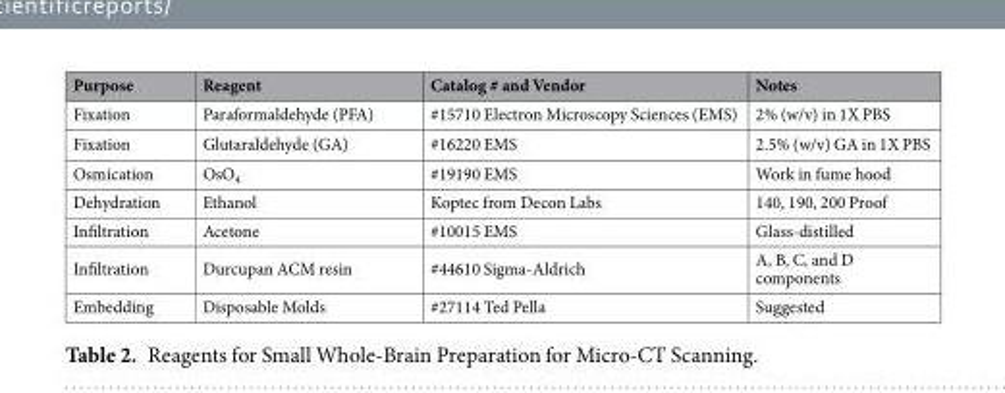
<table><thead><tr><td>Purpose</td><td>Reagent</td><td>Catalog # and Vendor</td><td>Notes</td></tr></thead><tbody><tr><td>Fixation</td><td>Paraformaldehyde (PFA)</td><td>#15710 Electron Microscopy Sciences (EMS)</td><td>2% (w/v) in 1X PBS</td></tr><tr><td>Fixation</td><td>Glutaraldehyde (GA)</td><td>#16220 EMS</td><td>2.5% (w/v) GA in 1X PBS</td></tr><tr><td>Osmication</td><td>OsO<sub>4</sub></td><td>#19190 EMS</td><td>Work in fume hood</td></tr><tr><td>Dehydration</td><td>Ethanol</td><td>Koptec from Decon Labs</td><td>140, 190, 200 Proof</td></tr><tr><td>Infiltration</td><td>Acetone</td><td>#10015 EMS</td><td>Glass-distilled</td></tr><tr><td>Infiltration</td><td>Durcupan ACM resin</td><td>#44610 Sigma-Aldrich</td><td>A, B, C, and D components</td></tr><tr><td>Embedding</td><td>Disposable Molds</td><td>#27114 Ted Pella</td><td>Suggested</td></tr></tbody></table>